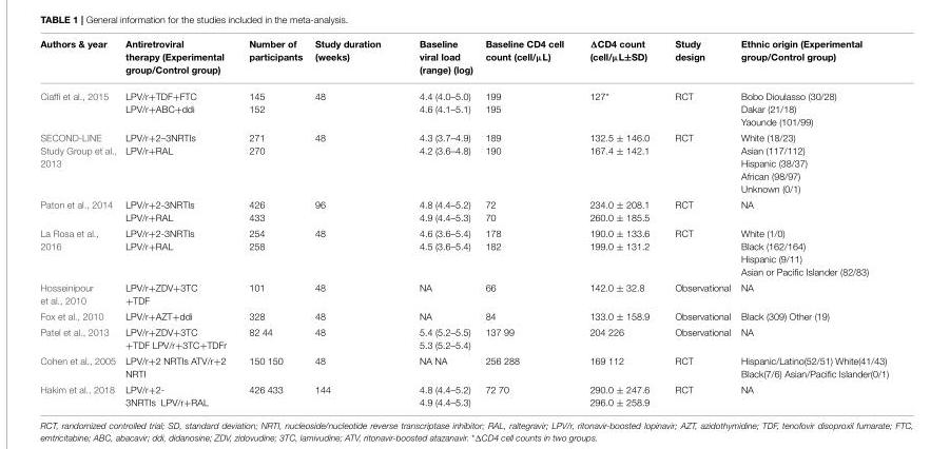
<table><thead><tr><td>Authors &amp; year</td><td>Antiretroviral therapy (Experimental group/Control group)</td><td>Number of participants</td><td>Study duration (weeks)</td><td>Baseline viral load (range) (log)</td><td>Baseline CD4 cell count (cell/µL)</td><td>ΔCD4 count (cell/µL±SD)</td><td>Study design</td><td>Ethnic origin (Experimental group/Control group)</td></tr></thead><tbody><tr><td>Ciaffi et al., 2015</td><td>LPV/r+TDF+FTC LPV/r+ABC+ddi</td><td>145 152</td><td>48</td><td>4.4 (4.0–5.0) 4.6 (4.1–5.1)</td><td>199 195</td><td>127*</td><td>RCT</td><td>Bobo Dioulasso (30/28) Dakar (21/18) Yaounde (101/99)</td></tr><tr><td>SECOND-LINE Study Group et al., 2013</td><td>LPV/r+2–3NRTIs LPV/r+RAL</td><td>271 270</td><td>48</td><td>4.3 (3.7–4.9) 4.2 (3.6–4.8)</td><td>189 190</td><td>132.5 ± 146.0 167.4 ± 142.1</td><td>RCT</td><td>White (18/23) Asian (117/112) Hispanic (38/37) African (98/97) Unknown (0/1)</td></tr><tr><td>Paton et al., 2014</td><td>LPV/r+2-3NRTIs LPV/r+RAL</td><td>426 433</td><td>96</td><td>4.8 (4.4–5.2) 4.9 (4.4–5.3)</td><td>72 70</td><td>234.0 ± 208.1 260.0 ± 185.5</td><td>RCT</td><td>NA</td></tr><tr><td>La Rosa et al., 2016</td><td>LPV/r+2-3NRTIs LPV/r+RAL</td><td>254 258</td><td>48</td><td>4.6 (3.6–5.4) 4.5 (3.6–5.4)</td><td>178 182</td><td>190.0 ± 133.6 199.0 ± 131.2</td><td>RCT</td><td>White (1/0) Black (162/164) Hispanic (9/11) Asian or Pacific Islander (82/83)</td></tr><tr><td>Hosseinipour et al., 2010</td><td>LPV/r+ZDV+3TC +TDF</td><td>101</td><td>48</td><td>NA</td><td>66</td><td>142.0 ± 32.8</td><td>Observational</td><td>NA</td></tr><tr><td>Fox et al., 2010</td><td>LPV/r+AZT+ddi</td><td>328</td><td>48</td><td>NA</td><td>84</td><td>133.0 ± 158.9</td><td>Observational</td><td>Black (309) Other (19)</td></tr><tr><td>Patel et al., 2013</td><td>LPV/r+ZDV+3TC +TDF LPV/r+3TC+TDFr</td><td>82 44</td><td>48</td><td>5.4 (5.2–5.5) 5.3 (5.2–5.4)</td><td>137 99</td><td>204 226</td><td>Observational</td><td>NA</td></tr><tr><td>Cohen et al., 2005</td><td>LPV/r+2 NRTIs ATV/r+2 NRTI</td><td>150 150</td><td>48</td><td>NA NA</td><td>256 288</td><td>169 112</td><td>RCT</td><td>Hispanic/Latino(52/51) White(41/43) Black(7/6) Asian/Pacific Islander(0/1)</td></tr><tr><td>Hakim et al., 2018</td><td>LPV/r+2- 3NRTIs LPV/r+RAL</td><td>426 433</td><td>144</td><td>4.8 (4.4–5.2) 4.9 (4.4–5.3)</td><td>72 70</td><td>290.0 ± 247.6 296.0 ± 258.9</td><td>RCT</td><td>NA</td></tr></tbody></table>